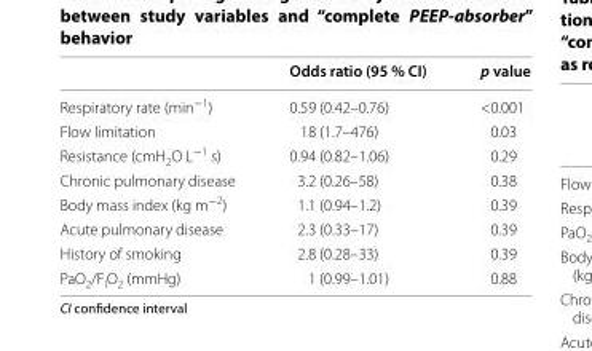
<table><thead><tr><td></td><td>Odds ratio (95 % CI)</td><td>p value</td></tr></thead><tbody><tr><td>Respiratory rate (min<sup>−1</sup>)</td><td>0.59 (0.42–0.76)</td><td>&lt;0.001</td></tr><tr><td>Flow limitation</td><td>18 (1.7–476)</td><td>0.03</td></tr><tr><td>Resistance (cmH<sub>2</sub>O L<sup>−1</sup> s)</td><td>0.94 (0.82–1.06)</td><td>0.29</td></tr><tr><td>Chronic pulmonary disease</td><td>3.2 (0.26–58)</td><td>0.38</td></tr><tr><td>Body mass index (kg m<sup>−2</sup>)</td><td>1.1 (0.94–1.2)</td><td>0.39</td></tr><tr><td>Acute pulmonary disease</td><td>2.3 (0.33–17)</td><td>0.39</td></tr><tr><td>History of smoking</td><td>2.8 (0.28–33)</td><td>0.39</td></tr><tr><td>PaO<sub>2</sub>/F<sub>I</sub>O<sub>2</sub> (mmHg)</td><td>1 (0.99–1.01)</td><td>0.88</td></tr></tbody></table>